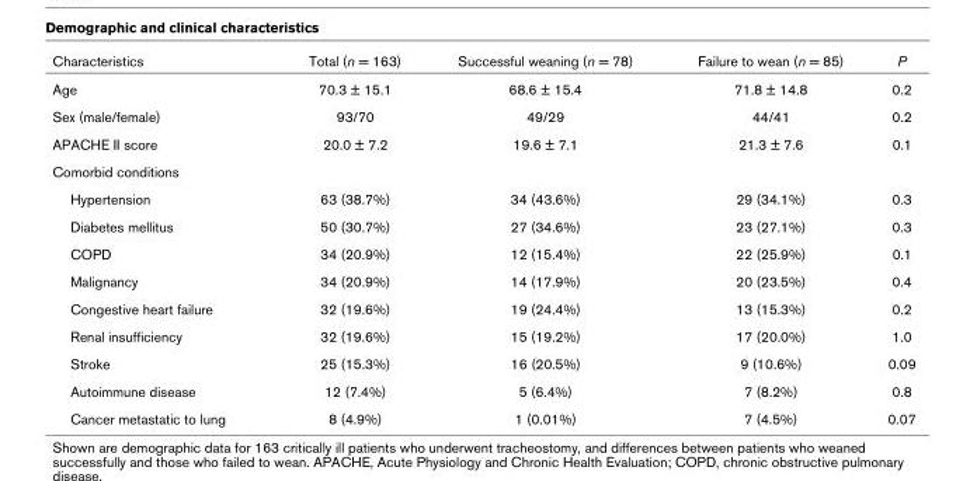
<table><thead><tr><td>Characteristics</td><td>Total (n = 163)</td><td>Successful weaning (n = 78)</td><td>Failure to wean (n = 85)</td><td>P</td></tr></thead><tbody><tr><td>Age</td><td>70.3 ± 15.1</td><td>68.6 ± 15.4</td><td>71.8 ± 14.8</td><td>0.2</td></tr><tr><td>Sex (male/female)</td><td>93/70</td><td>49/29</td><td>44/41</td><td>0.2</td></tr><tr><td>APACHE II score</td><td>20.0 ± 7.2</td><td>19.6 ± 7.1</td><td>21.3 ± 7.6</td><td>0.1</td></tr><tr><td colspan="5">Comorbid conditions</td></tr><tr><td>Hypertension</td><td>63 (38.7%)</td><td>34 (43.6%)</td><td>29 (34.1%)</td><td>0.3</td></tr><tr><td>Diabetes mellitus</td><td>50 (30.7%)</td><td>27 (34.6%)</td><td>23 (27.1%)</td><td>0.3</td></tr><tr><td>COPD</td><td>34 (20.9%)</td><td>12 (15.4%)</td><td>22 (25.9%)</td><td>0.1</td></tr><tr><td>Malignancy</td><td>34 (20.9%)</td><td>14 (17.9%)</td><td>20 (23.5%)</td><td>0.4</td></tr><tr><td>Congestive heart failure</td><td>32 (19.6%)</td><td>19 (24.4%)</td><td>13 (15.3%)</td><td>0.2</td></tr><tr><td>Renal insufficiency</td><td>32 (19.6%)</td><td>15 (19.2%)</td><td>17 (20.0%)</td><td>1.0</td></tr><tr><td>Stroke</td><td>25 (15.3%)</td><td>16 (20.5%)</td><td>9 (10.6%)</td><td>0.09</td></tr><tr><td>Autoimmune disease</td><td>12 (7.4%)</td><td>5 (6.4%)</td><td>7 (8.2%)</td><td>0.8</td></tr><tr><td>Cancer metastatic to lung</td><td>8 (4.9%)</td><td>1 (0.01%)</td><td>7 (4.5%)</td><td>0.07</td></tr></tbody></table>